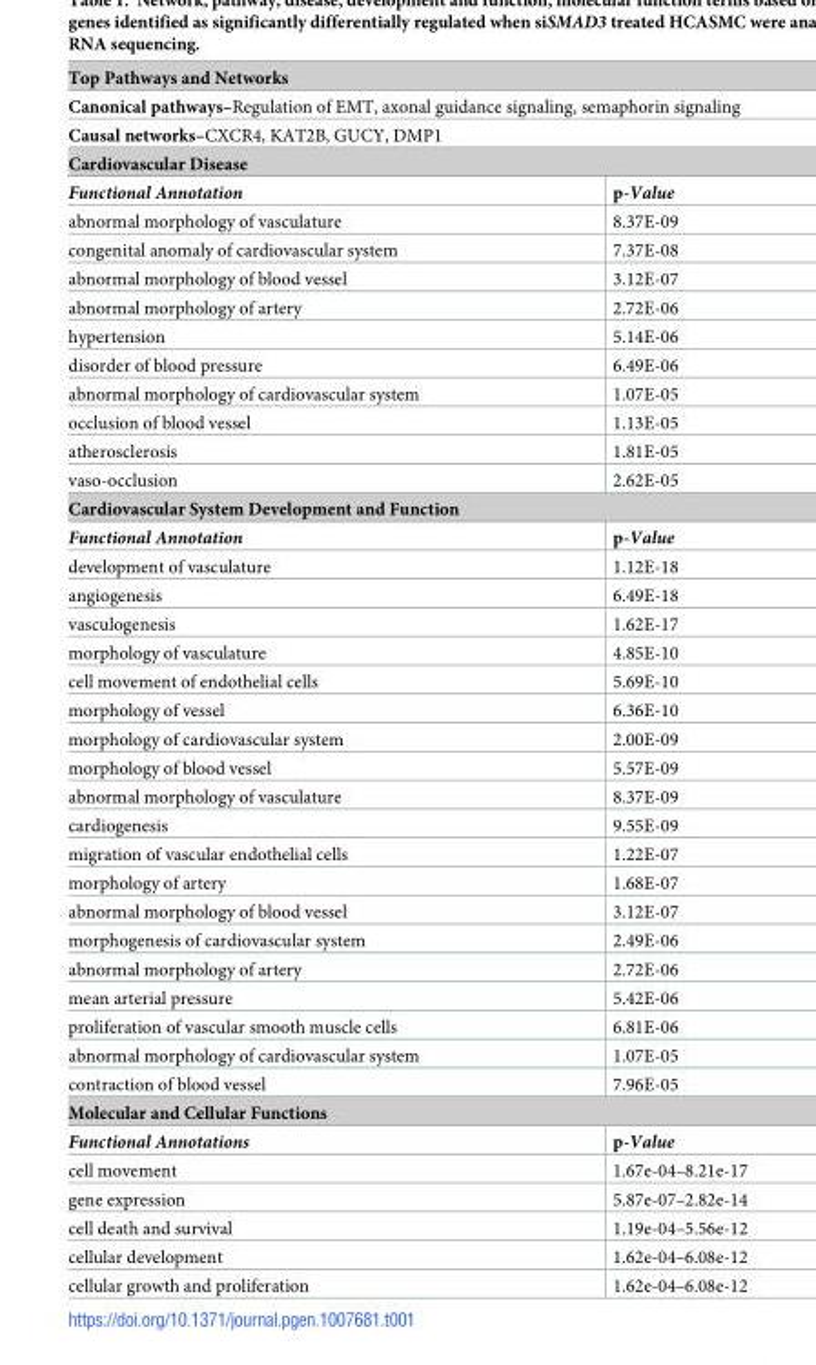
<table><tbody><tr><td colspan="2">Top Pathways and Networks</td></tr><tr><td colspan="2">Canonical pathways–Regulation of EMT, axonal guidance signaling, semaphorin signaling</td></tr><tr><td colspan="2">Causal networks–CXCR4, KAT2B, GUCY, DMP1</td></tr><tr><td colspan="2">Cardiovascular Disease</td></tr><tr><td>Functional Annotation</td><td>p-Value</td></tr><tr><td>abnormal morphology of vasculature</td><td>8.37E-09</td></tr><tr><td>congenital anomaly of cardiovascular system</td><td>7.37E-08</td></tr><tr><td>abnormal morphology of blood vessel</td><td>3.12E-07</td></tr><tr><td>abnormal morphology of artery</td><td>2.72E-06</td></tr><tr><td>hypertension</td><td>5.14E-06</td></tr><tr><td>disorder of blood pressure</td><td>6.49E-06</td></tr><tr><td>abnormal morphology of cardiovascular system</td><td>1.07E-05</td></tr><tr><td>occlusion of blood vessel</td><td>1.13E-05</td></tr><tr><td>atherosclerosis</td><td>1.81E-05</td></tr><tr><td>vaso-occlusion</td><td>2.62E-05</td></tr><tr><td colspan="2">Cardiovascular System Development and Function</td></tr><tr><td>Functional Annotation</td><td>p-Value</td></tr><tr><td>development of vasculature</td><td>1.12E-18</td></tr><tr><td>angiogenesis</td><td>6.49E-18</td></tr><tr><td>vasculogenesis</td><td>1.62E-17</td></tr><tr><td>morphology of vasculature</td><td>4.85E-10</td></tr><tr><td>cell movement of endothelial cells</td><td>5.69E-10</td></tr><tr><td>morphology of vessel</td><td>6.36E-10</td></tr><tr><td>morphology of cardiovascular system</td><td>2.00E-09</td></tr><tr><td>morphology of blood vessel</td><td>5.57E-09</td></tr><tr><td>abnormal morphology of vasculature</td><td>8.37E-09</td></tr><tr><td>cardiogenesis</td><td>9.55E-09</td></tr><tr><td>migration of vascular endothelial cells</td><td>1.22E-07</td></tr><tr><td>morphology of artery</td><td>1.68E-07</td></tr><tr><td>abnormal morphology of blood vessel</td><td>3.12E-07</td></tr><tr><td>morphogenesis of cardiovascular system</td><td>2.49E-06</td></tr><tr><td>abnormal morphology of artery</td><td>2.72E-06</td></tr><tr><td>mean arterial pressure</td><td>5.42E-06</td></tr><tr><td>proliferation of vascular smooth muscle cells</td><td>6.81E-06</td></tr><tr><td>abnormal morphology of cardiovascular system</td><td>1.07E-05</td></tr><tr><td>contraction of blood vessel</td><td>7.96E-05</td></tr><tr><td colspan="2">Molecular and Cellular Functions</td></tr><tr><td>Functional Annotations</td><td>p-Value</td></tr><tr><td>cell movement</td><td>1.67e-04–8.21e-17</td></tr><tr><td>gene expression</td><td>5.87e-07–2.82e-14</td></tr><tr><td>cell death and survival</td><td>1.19e-04–5.56e-12</td></tr><tr><td>cellular development</td><td>1.62e-04–6.08e-12</td></tr><tr><td>cellular growth and proliferation</td><td>1.62e-04–6.08e-12</td></tr></tbody></table>